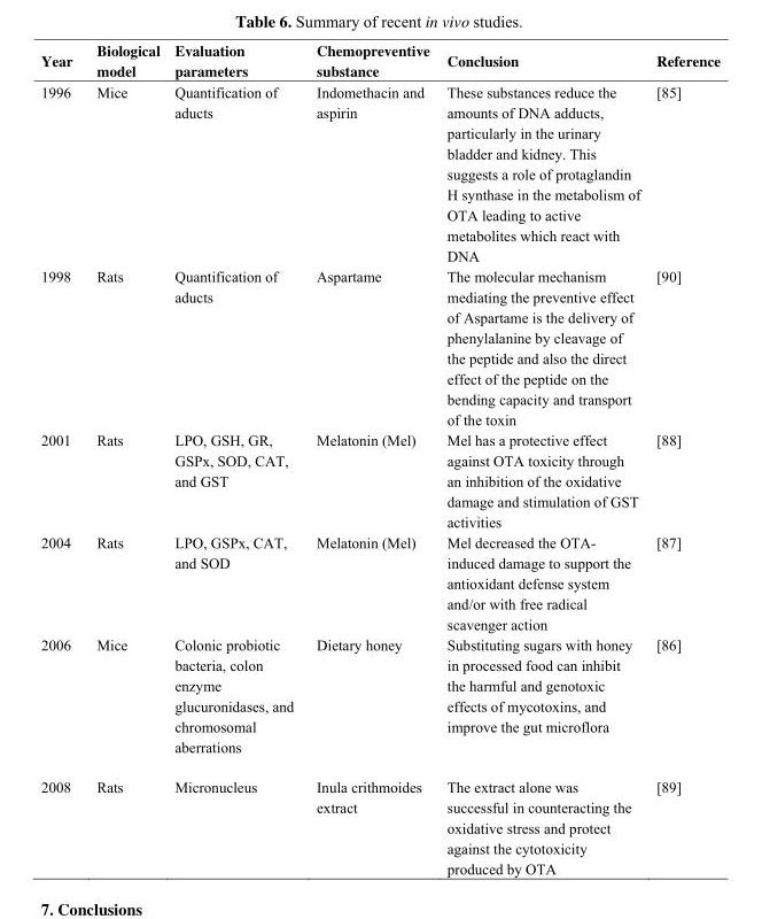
<table><thead><tr><td>Year</td><td>Biological model</td><td>Evaluation parameters</td><td>Chemopreventive substance</td><td>Conclusion</td><td>Reference</td></tr></thead><tbody><tr><td>1996</td><td>Mice</td><td>Quantification of aducts</td><td>Indomethacin and aspirin</td><td>These substances reduce the amounts of DNA adducts, particularly in the urinary bladder and kidney. This suggests a role of protaglandin H synthase in the metabolism of OTA leading to active metabolites which react with DNA</td><td>[85]</td></tr><tr><td>1998</td><td>Rats</td><td>Quantification of aducts</td><td>Aspartame</td><td>The molecular mechanism mediating the preventive effect of Aspartame is the delivery of phenylalanine by cleavage of the peptide and also the direct effect of the peptide on the bending capacity and transport of the toxin</td><td>[90]</td></tr><tr><td>2001</td><td>Rats</td><td>LPO, GSH, GR, GSPx, SOD, CAT, and GST</td><td>Melatonin (Mel)</td><td>Mel has a protective effect against OTA toxicity through an inhibition of the oxidative damage and stimulation of GST activities</td><td>[88]</td></tr><tr><td>2004</td><td>Rats</td><td>LPO, GSPx, CAT, and SOD</td><td>Melatonin (Mel)</td><td>Mel decreased the OTA- induced damage to support the antioxidant defense system and/or with free radical scavenger action</td><td>[87]</td></tr><tr><td>2006</td><td>Mice</td><td>Colonic probiotic bacteria, colon enzyme glucuronidases, and chromosomal aberrations</td><td>Dietary honey</td><td>Substituting sugars with honey in processed food can inhibit the harmful and genotoxic effects of mycotoxins, and improve the gut microflora</td><td>[86]</td></tr><tr><td>2008</td><td>Rats</td><td>Micronucleus</td><td>Inula crithmoides extract</td><td>The extract alone was successful in counteracting the oxidative stress and protect against the cytotoxicity produced by OTA</td><td>[89]</td></tr></tbody></table>